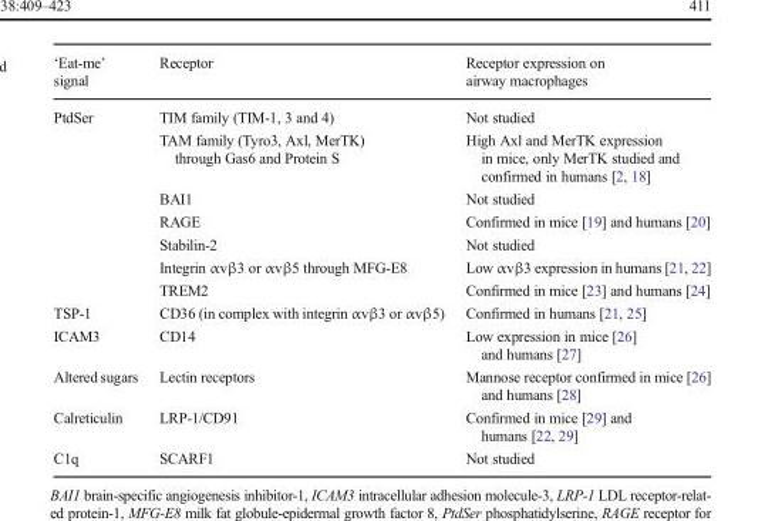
<table><thead><tr><td>‘Eat-me’ signal</td><td>Receptor</td><td>Receptor expression on airway macrophages</td></tr></thead><tbody><tr><td rowspan="7">PtdSer</td><td>TIM family (TIM-1, 3 and 4)</td><td>Not studied</td></tr><tr><td>TAM family (Tyro3, Axl, MerTK) through Gas6 and Protein S</td><td>High Axl and MerTK expression in mice, only MerTK studied and confirmed in humans [2, 18]</td></tr><tr><td>BAI1</td><td>Not studied</td></tr><tr><td>RAGE</td><td>Confirmed in mice [19] and humans [20]</td></tr><tr><td>Stabilin-2</td><td>Not studied</td></tr><tr><td>Integrin αvβ3 or αvβ5 through MFG-E8</td><td>Low αvβ3 expression in humans [21, 22]</td></tr><tr><td>TREM2</td><td>Confirmed in mice [23] and humans [24]</td></tr><tr><td>TSP-1</td><td>CD36 (in complex with integrin αvβ3 or αvβ5)</td><td>Confirmed in humans [21, 25]</td></tr><tr><td>ICAM3</td><td>CD14</td><td>Low expression in mice [26] and humans [27]</td></tr><tr><td>Altered sugars</td><td>Lectin receptors</td><td>Mannose receptor confirmed in mice [26] and humans [28]</td></tr><tr><td>Calreticulin</td><td>LRP-1/CD91</td><td>Confirmed in mice [29] and humans [22, 29]</td></tr><tr><td>C1q</td><td>SCARF1</td><td>Not studied</td></tr></tbody></table>